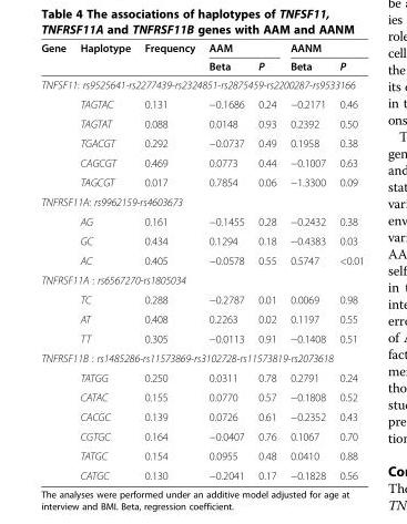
<table><thead><tr><td rowspan="2">Gene</td><td rowspan="2">Haplotype</td><td rowspan="2">Frequency</td><td colspan="2">AAM</td><td colspan="2">AANM</td></tr><tr><td>Beta</td><td>P</td><td>Beta</td><td>P</td></tr></thead><tbody><tr><td colspan="7">TNFSF11: rs9525641-rs2277439-rs2324851-rs2875459-rs2200287-rs9533166</td></tr><tr><td></td><td>TAGTAC</td><td>0.131</td><td>−0.1686</td><td>0.24</td><td>−0.2171</td><td>0.46</td></tr><tr><td></td><td>TAGTAT</td><td>0.088</td><td>0.0148</td><td>0.93</td><td>0.2392</td><td>0.50</td></tr><tr><td></td><td>TGACGT</td><td>0.292</td><td>−0.0737</td><td>0.49</td><td>0.1958</td><td>0.38</td></tr><tr><td></td><td>CAGCGT</td><td>0.469</td><td>0.0773</td><td>0.44</td><td>−0.1007</td><td>0.63</td></tr><tr><td></td><td>TAGCGT</td><td>0.017</td><td>0.7854</td><td>0.06</td><td>−1.3300</td><td>0.09</td></tr><tr><td colspan="7">TNFRSF11A: rs9962159-rs4603673</td></tr><tr><td></td><td>AG</td><td>0.161</td><td>−0.1455</td><td>0.28</td><td>−0.2432</td><td>0.38</td></tr><tr><td></td><td>GC</td><td>0.434</td><td>0.1294</td><td>0.18</td><td>−0.4383</td><td>0.03</td></tr><tr><td></td><td>AC</td><td>0.405</td><td>−0.0578</td><td>0.55</td><td>0.5747</td><td>&lt;0.01</td></tr><tr><td colspan="7">TNFRSF11A : rs6567270-rs1805034</td></tr><tr><td></td><td>TC</td><td>0.288</td><td>−0.2787</td><td>0.01</td><td>0.0069</td><td>0.98</td></tr><tr><td></td><td>AT</td><td>0.408</td><td>0.2263</td><td>0.02</td><td>0.1197</td><td>0.55</td></tr><tr><td></td><td>TT</td><td>0.305</td><td>−0.0113</td><td>0.91</td><td>−0.1408</td><td>0.51</td></tr><tr><td colspan="7">TNFRSF11B : rs1485286-rs11573869-rs3102728-rs11573819-rs2073618</td></tr><tr><td></td><td>TATGG</td><td>0.250</td><td>0.0311</td><td>0.78</td><td>0.2791</td><td>0.24</td></tr><tr><td></td><td>CATAC</td><td>0.155</td><td>0.0770</td><td>0.57</td><td>−0.1808</td><td>0.52</td></tr><tr><td></td><td>CACGC</td><td>0.139</td><td>0.0726</td><td>0.61</td><td>−0.2352</td><td>0.43</td></tr><tr><td></td><td>CGTGC</td><td>0.164</td><td>−0.0407</td><td>0.76</td><td>0.1067</td><td>0.70</td></tr><tr><td></td><td>TATGC</td><td>0.154</td><td>0.0955</td><td>0.48</td><td>0.0410</td><td>0.88</td></tr><tr><td></td><td>CATGC</td><td>0.130</td><td>−0.2041</td><td>0.17</td><td>−0.1828</td><td>0.56</td></tr></tbody></table>